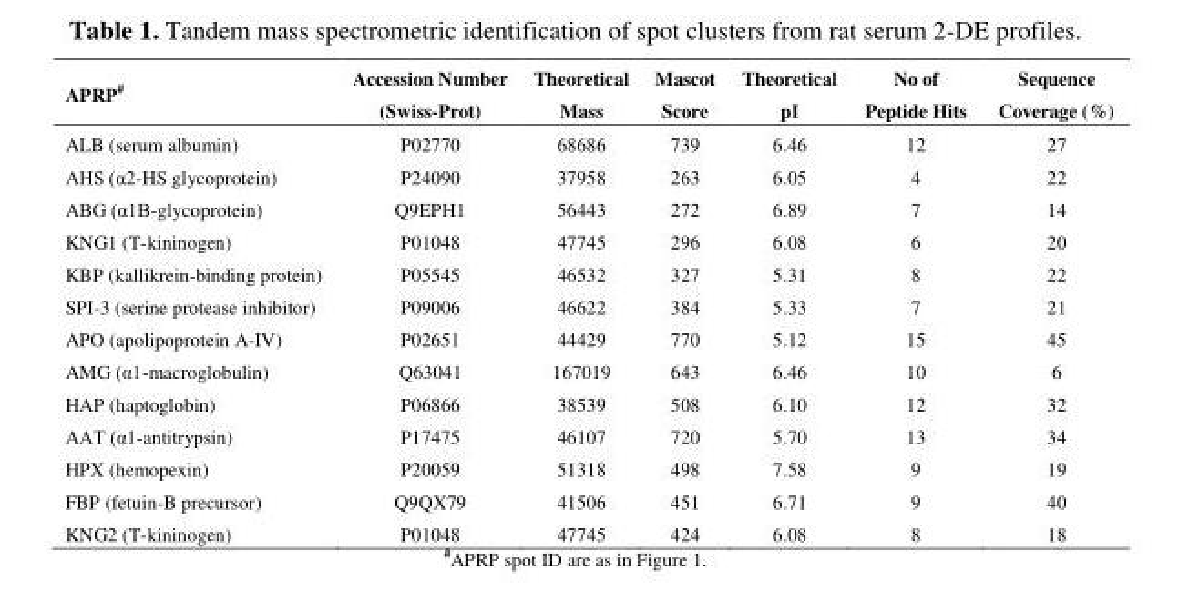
<table><thead><tr><td>APRP<sup>#</sup></td><td>Accession Number (Swiss-Prot)</td><td>Theoretical Mass</td><td>Mascot Score</td><td>Theoretical pI</td><td>No of Peptide Hits</td><td>Sequence Coverage (%)</td></tr></thead><tbody><tr><td>ALB (serum albumin)</td><td>P02770</td><td>68686</td><td>739</td><td>6.46</td><td>12</td><td>27</td></tr><tr><td>AHS (α2-HS glycoprotein)</td><td>P24090</td><td>37958</td><td>263</td><td>6.05</td><td>4</td><td>22</td></tr><tr><td>ABG (α1B-glycoprotein)</td><td>Q9EPH1</td><td>56443</td><td>272</td><td>6.89</td><td>7</td><td>14</td></tr><tr><td>KNG1 (T-kininogen)</td><td>P01048</td><td>47745</td><td>296</td><td>6.08</td><td>6</td><td>20</td></tr><tr><td>KBP (kallikrein-binding protein)</td><td>P05545</td><td>46532</td><td>327</td><td>5.31</td><td>8</td><td>22</td></tr><tr><td>SPI-3 (serine protease inhibitor)</td><td>P09006</td><td>46622</td><td>384</td><td>5.33</td><td>7</td><td>21</td></tr><tr><td>APO (apolipoprotein A-IV)</td><td>P02651</td><td>44429</td><td>770</td><td>5.12</td><td>15</td><td>45</td></tr><tr><td>AMG (α1-macroglobulin)</td><td>Q63041</td><td>167019</td><td>643</td><td>6.46</td><td>10</td><td>6</td></tr><tr><td>HAP (haptoglobin)</td><td>P06866</td><td>38539</td><td>508</td><td>6.10</td><td>12</td><td>32</td></tr><tr><td>AAT (α1-antitrypsin)</td><td>P17475</td><td>46107</td><td>720</td><td>5.70</td><td>13</td><td>34</td></tr><tr><td>HPX (hemopexin)</td><td>P20059</td><td>51318</td><td>498</td><td>7.58</td><td>9</td><td>19</td></tr><tr><td>FBP (fetuin-B precursor)</td><td>Q9QX79</td><td>41506</td><td>451</td><td>6.71</td><td>9</td><td>40</td></tr><tr><td>KNG2 (T-kininogen)</td><td>P01048</td><td>47745</td><td>424</td><td>6.08</td><td>8</td><td>18</td></tr></tbody></table>